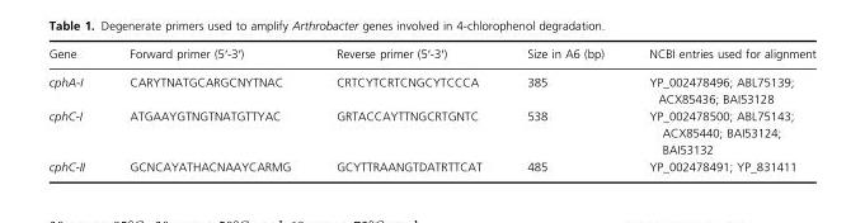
<table><thead><tr><td>Gene</td><td>Forward primer (5′-3′)</td><td>Reverse primer (5′-3′)</td><td>Size in A6 (bp)</td><td>NCBI entries used for alignment</td></tr></thead><tbody><tr><td>cphA-I</td><td>CARYTNATGCARGCNYTNAC</td><td>CRTCYTCRTCNGCYTCCCA</td><td>385</td><td>YP_002478496; ABL75139; ACX85436; BAI53128</td></tr><tr><td>cphC-I</td><td>ATGAAYGTNGTNATGTTYAC</td><td>GRTACCAYTTNGCRTGNTC</td><td>538</td><td>YP_002478500; ABL75143; ACX85440; BAI53124; BAI53132</td></tr><tr><td>cphC-II</td><td>GCNCAYATHACNAAYCARMG</td><td>GCYTTRAANGTDATRTTCAT</td><td>485</td><td>YP_002478491; YP_831411</td></tr></tbody></table>